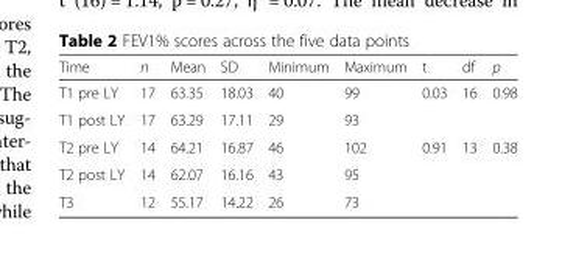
<table><thead><tr><td>Time</td><td>n</td><td>Mean</td><td>SD</td><td>Minimum</td><td>Maximum</td><td>t</td><td>df</td><td>p</td></tr></thead><tbody><tr><td>T1 pre LY</td><td>17</td><td>63.35</td><td>18.03</td><td>40</td><td>99</td><td>0.03</td><td>16</td><td>0.98</td></tr><tr><td>T1 post LY</td><td>17</td><td>63.29</td><td>17.11</td><td>29</td><td>93</td><td></td><td></td><td></td></tr><tr><td>T2 pre LY</td><td>14</td><td>64.21</td><td>16.87</td><td>46</td><td>102</td><td>0.91</td><td>13</td><td>0.38</td></tr><tr><td>T2 post LY</td><td>14</td><td>62.07</td><td>16.16</td><td>43</td><td>95</td><td></td><td></td><td></td></tr><tr><td>T3</td><td>12</td><td>55.17</td><td>14.22</td><td>26</td><td>73</td><td></td><td></td><td></td></tr></tbody></table>